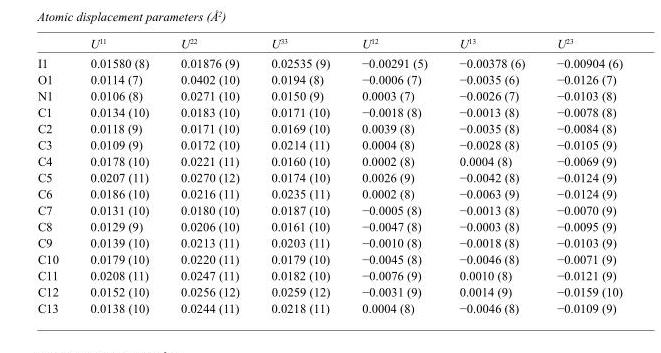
<table><thead><tr><td></td><td>U<sup>11</sup></td><td>U<sup>22</sup></td><td>U<sup>33</sup></td><td>U<sup>12</sup></td><td>U<sup>13</sup></td><td>U<sup>23</sup></td></tr></thead><tbody><tr><td>I1</td><td>0.01580 (8)</td><td>0.01876 (9)</td><td>0.02535 (9)</td><td>−0.00291 (5)</td><td>−0.00378 (6)</td><td>−0.00904 (6)</td></tr><tr><td>O1</td><td>0.0114 (7)</td><td>0.0402 (10)</td><td>0.0194 (8)</td><td>−0.0006 (7)</td><td>−0.0035 (6)</td><td>−0.0126 (7)</td></tr><tr><td>N1</td><td>0.0106 (8)</td><td>0.0271 (10)</td><td>0.0150 (9)</td><td>0.0003 (7)</td><td>−0.0026 (7)</td><td>−0.0103 (8)</td></tr><tr><td>C1</td><td>0.0134 (10)</td><td>0.0183 (10)</td><td>0.0171 (10)</td><td>−0.0018 (8)</td><td>−0.0013 (8)</td><td>−0.0078 (8)</td></tr><tr><td>C2</td><td>0.0118 (9)</td><td>0.0171 (10)</td><td>0.0169 (10)</td><td>0.0039 (8)</td><td>−0.0035 (8)</td><td>−0.0084 (8)</td></tr><tr><td>C3</td><td>0.0109 (9)</td><td>0.0172 (10)</td><td>0.0214 (11)</td><td>0.0004 (8)</td><td>−0.0028 (8)</td><td>−0.0105 (9)</td></tr><tr><td>C4</td><td>0.0178 (10)</td><td>0.0221 (11)</td><td>0.0160 (10)</td><td>0.0002 (8)</td><td>0.0004 (8)</td><td>−0.0069 (9)</td></tr><tr><td>C5</td><td>0.0207 (11)</td><td>0.0270 (12)</td><td>0.0174 (10)</td><td>0.0026 (9)</td><td>−0.0042 (8)</td><td>−0.0124 (9)</td></tr><tr><td>C6</td><td>0.0186 (10)</td><td>0.0216 (11)</td><td>0.0235 (11)</td><td>0.0002 (8)</td><td>−0.0063 (9)</td><td>−0.0124 (9)</td></tr><tr><td>C7</td><td>0.0131 (10)</td><td>0.0180 (10)</td><td>0.0187 (10)</td><td>−0.0005 (8)</td><td>−0.0013 (8)</td><td>−0.0070 (9)</td></tr><tr><td>C8</td><td>0.0129 (9)</td><td>0.0206 (10)</td><td>0.0161 (10)</td><td>−0.0047 (8)</td><td>−0.0003 (8)</td><td>−0.0095 (9)</td></tr><tr><td>C9</td><td>0.0139 (10)</td><td>0.0213 (11)</td><td>0.0203 (11)</td><td>−0.0010 (8)</td><td>−0.0018 (8)</td><td>−0.0103 (9)</td></tr><tr><td>C10</td><td>0.0179 (10)</td><td>0.0220 (11)</td><td>0.0179 (10)</td><td>−0.0045 (8)</td><td>−0.0046 (8)</td><td>−0.0071 (9)</td></tr><tr><td>C11</td><td>0.0208 (11)</td><td>0.0247 (11)</td><td>0.0182 (10)</td><td>−0.0076 (9)</td><td>0.0010 (8)</td><td>−0.0121 (9)</td></tr><tr><td>C12</td><td>0.0152 (10)</td><td>0.0256 (12)</td><td>0.0259 (12)</td><td>−0.0031 (9)</td><td>0.0014 (9)</td><td>−0.0159 (10)</td></tr><tr><td>C13</td><td>0.0138 (10)</td><td>0.0244 (11)</td><td>0.0218 (11)</td><td>0.0004 (8)</td><td>−0.0046 (8)</td><td>−0.0109 (9)</td></tr></tbody></table>